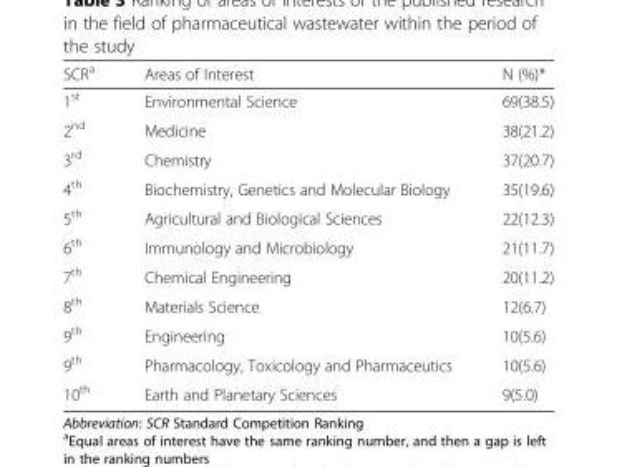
<table><thead><tr><td>SCR<sup>a</sup></td><td>Areas of Interest</td><td>N (%)*</td></tr></thead><tbody><tr><td>1<sup>st</sup></td><td>Environmental Science</td><td>69(38.5)</td></tr><tr><td>2<sup>nd</sup></td><td>Medicine</td><td>38(21.2)</td></tr><tr><td>3<sup>rd</sup></td><td>Chemistry</td><td>37(20.7)</td></tr><tr><td>4<sup>th</sup></td><td>Biochemistry, Genetics and Molecular Biology</td><td>35(19.6)</td></tr><tr><td>5<sup>th</sup></td><td>Agricultural and Biological Sciences</td><td>22(12.3)</td></tr><tr><td>6<sup>th</sup></td><td>Immunology and Microbiology</td><td>21(11.7)</td></tr><tr><td>7<sup>th</sup></td><td>Chemical Engineering</td><td>20(11.2)</td></tr><tr><td>8<sup>th</sup></td><td>Materials Science</td><td>12(6.7)</td></tr><tr><td>9<sup>th</sup></td><td>Engineering</td><td>10(5.6)</td></tr><tr><td>9<sup>th</sup></td><td>Pharmacology, Toxicology and Pharmaceutics</td><td>10(5.6)</td></tr><tr><td>10<sup>th</sup></td><td>Earth and Planetary Sciences</td><td>9(5.0)</td></tr></tbody></table>